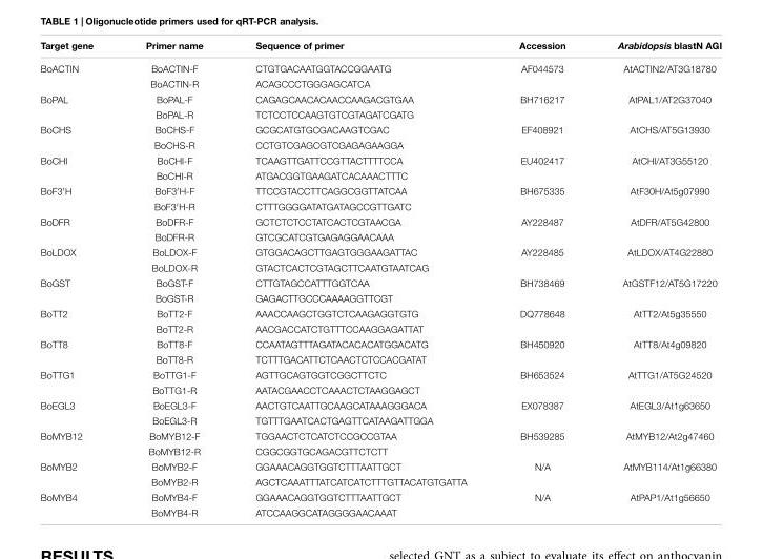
<table><thead><tr><td>Target gene</td><td>Primer name</td><td>Sequence of primer</td><td>Accession</td><td>Arabidopsis blastN AGI</td></tr></thead><tbody><tr><td rowspan="2">BoACTIN</td><td>BoACTIN-F</td><td>CTGTGACAATGGTACCGGAATG</td><td>AF044573</td><td>AtACTIN2/AT3G18780</td></tr><tr><td>BoACTIN-R</td><td>ACAGCCCTGGGAGCATCA</td><td></td><td></td></tr><tr><td rowspan="2">BoPAL</td><td>BoPAL-F</td><td>CAGAGCAACACAACCAAGACGTGAA</td><td>BH716217</td><td>AtPAL1/AT2G37040</td></tr><tr><td>BoPAL-R</td><td>TCTCCTCCAAGTGTCGTAGATCGATG</td><td></td><td></td></tr><tr><td rowspan="2">BoCHS</td><td>BoCHS-F</td><td>GCGCATGTGCGACAAGTCGAC</td><td>EF408921</td><td>AtCHS/AT5G13930</td></tr><tr><td>BoCHS-R</td><td>CCTGTCGAGCGTCGAGAGAAGGA</td><td></td><td></td></tr><tr><td rowspan="2">BoCHI</td><td>BoCHI-F</td><td>TCAAGTTGATTCCGTTACTTTTCCA</td><td>EU402417</td><td>AtCHI/AT3G55120</td></tr><tr><td>BoCHI-R</td><td>ATGACGGTGAAGATCACAAACTTTC</td><td></td><td></td></tr><tr><td rowspan="2">BoF3′H</td><td>BoF3′H-F</td><td>TTCCGTACCTTCAGGCGGTTATCAA</td><td>BH675335</td><td>AtF30H/At5g07990</td></tr><tr><td>BoF3′H-R</td><td>CTTTGGGGATATGATAGCCGTTGATC</td><td></td><td></td></tr><tr><td rowspan="2">BoDFR</td><td>BoDFR-F</td><td>GCTCTCTCCTATCACTCGTAACGA</td><td>AY228487</td><td>AtDFR/AT5G42800</td></tr><tr><td>BoDFR-R</td><td>GTCGCATCGTGAGAGGAACAAA</td><td></td><td></td></tr><tr><td rowspan="2">BoLDOX</td><td>BoLDOX-F</td><td>GTGGACAGCTTGAGTGGGAAGATTAC</td><td>AY228485</td><td>AtLDOX/AT4G22880</td></tr><tr><td>BoLDOX-R</td><td>GTACTCACTCGTAGCTTCAATGTAATCAG</td><td></td><td></td></tr><tr><td rowspan="2">BoGST</td><td>BoGST-F</td><td>CTTGTAGCCATTTGGTCAA</td><td>BH738469</td><td>AtGSTF12/AT5G17220</td></tr><tr><td>BoGST-R</td><td>GAGACTTGCCCAAAAGGTTCGT</td><td></td><td></td></tr><tr><td rowspan="2">BoTT2</td><td>BoTT2-F</td><td>AAACCAAGCTGGTCTCAAGAGGTGTG</td><td>DQ778648</td><td>AtTT2/At5g35550</td></tr><tr><td>BoTT2-R</td><td>AACGACCATCTGTTTCCAAGGAGATTAT</td><td></td><td></td></tr><tr><td rowspan="2">BoTT8</td><td>BoTT8-F</td><td>CCAATAGTTTAGATACACACATGGACATG</td><td>BH450920</td><td>AtTT8/At4g09820</td></tr><tr><td>BoTT8-R</td><td>TCTTTGACATTCTCAACTCTCCACGATAT</td><td></td><td></td></tr><tr><td rowspan="2">BoTTG1</td><td>BoTTG1-F</td><td>AGTTGCAGTGGTCGGCTTCTC</td><td>BH653524</td><td>AtTTG1/AT5G24520</td></tr><tr><td>BoTTG1-R</td><td>AATACGAACCTCAAACTCTAAGGAGCT</td><td></td><td></td></tr><tr><td rowspan="2">BoEGL3</td><td>BoEGL3-F</td><td>AACTGTCAATTGCAAGCATAAAGGGACA</td><td>EX078387</td><td>AtEGL3/At1g63650</td></tr><tr><td>BoEGL3-R</td><td>TGTTTGAATCACTGAGTTCATAAGATTGGA</td><td></td><td></td></tr><tr><td rowspan="2">BoMYB12</td><td>BoMYB12-F</td><td>TGGAACTCTCATCTCCGCCGTAA</td><td>BH539285</td><td>AtMYB12/At2g47460</td></tr><tr><td>BoMYB12-R</td><td>CGGCGGTGCAGACGTTCTCTT</td><td></td><td></td></tr><tr><td rowspan="2">BoMYB2</td><td>BoMYB2-F</td><td>GGAAACAGGTGGTCTTTAATTGCT</td><td>N/A</td><td>AtMYB114/At1g66380</td></tr><tr><td>BoMYB2-R</td><td>AGCTCAAATTTATCATCATCTTTGTTACATGTGATTA</td><td></td><td></td></tr><tr><td rowspan="2">BoMYB4</td><td>BoMYB4-F</td><td>GGAAACAGGTGGTCTTTAATTGCT</td><td>N/A</td><td>AtPAP1/At1g56650</td></tr><tr><td>BoMYB4-R</td><td>ATCCAAGGCATAGGGGAACAAAT</td><td></td><td></td></tr></tbody></table>